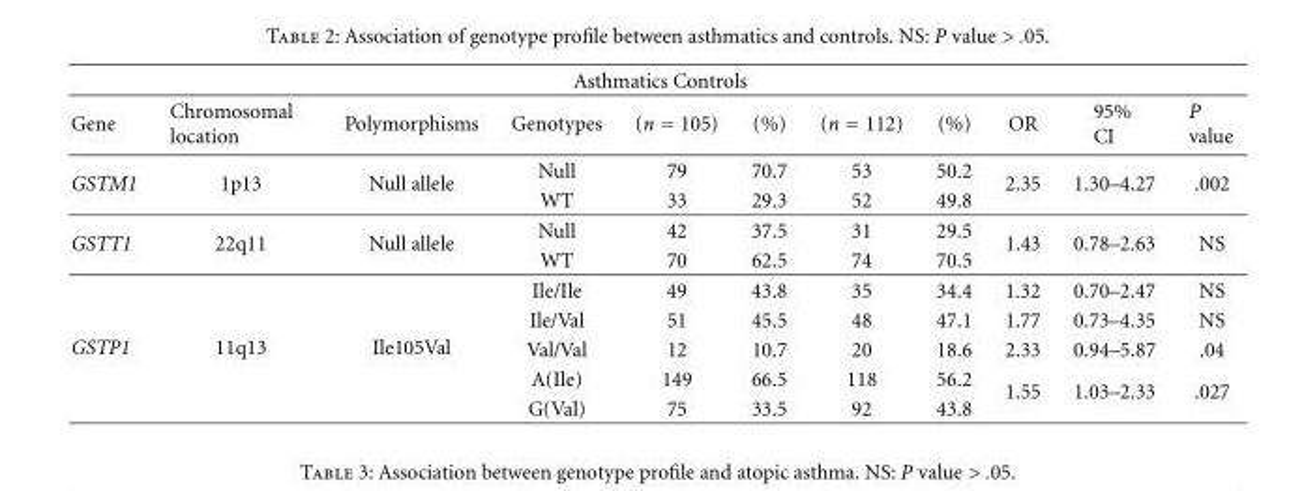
<table><tbody><tr><td colspan="11">Asthmatics Controls</td></tr><tr><td>Gene</td><td>Chromosomal location</td><td>Polymorphisms</td><td>Genotypes</td><td>(n = 105)</td><td>(%)</td><td>(n = 112)</td><td>(%)</td><td>OR</td><td>95% CI</td><td>P value</td></tr><tr><td rowspan="2">GSTM1</td><td rowspan="2">1p13</td><td rowspan="2">Null allele</td><td>Null</td><td>79</td><td>70.7</td><td>53</td><td>50.2</td><td rowspan="2">2.35</td><td rowspan="2">1.30–4.27</td><td rowspan="2">.002</td></tr><tr><td>WT</td><td>33</td><td>29.3</td><td>52</td><td>49.8</td></tr><tr><td rowspan="2">GSTT1</td><td rowspan="2">22q11</td><td rowspan="2">Null allele</td><td>Null</td><td>42</td><td>37.5</td><td>31</td><td>29.5</td><td rowspan="2">1.43</td><td rowspan="2">0.78–2.63</td><td rowspan="2">NS</td></tr><tr><td>WT</td><td>70</td><td>62.5</td><td>74</td><td>70.5</td></tr><tr><td rowspan="5">GSTP1</td><td rowspan="5">11q13</td><td rowspan="5">Ile105Val</td><td>Ile/Ile</td><td>49</td><td>43.8</td><td>35</td><td>34.4</td><td>1.32</td><td>0.70–2.47</td><td>NS</td></tr><tr><td>Ile/Val</td><td>51</td><td>45.5</td><td>48</td><td>47.1</td><td>1.77</td><td>0.73–4.35</td><td>NS</td></tr><tr><td>Val/Val</td><td>12</td><td>10.7</td><td>20</td><td>18.6</td><td>2.33</td><td>0.94–5.87</td><td>.04</td></tr><tr><td>A(Ile)</td><td>149</td><td>66.5</td><td>118</td><td>56.2</td><td rowspan="2">1.55</td><td rowspan="2">1.03–2.33</td><td rowspan="2">.027</td></tr><tr><td>G(Val)</td><td>75</td><td>33.5</td><td>92</td><td>43.8</td></tr></tbody></table>